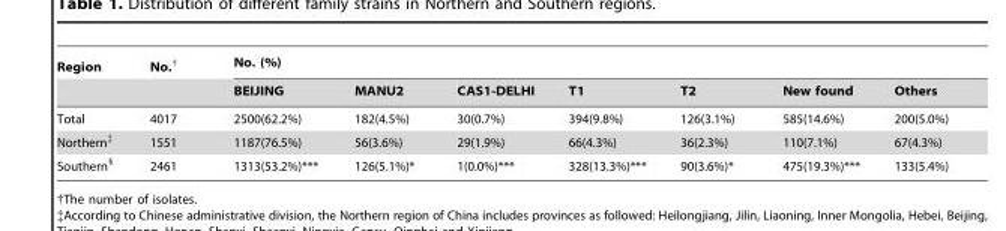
<table><thead><tr><td rowspan="2">Region</td><td rowspan="2">No.†</td><td colspan="7">No. (%)</td></tr><tr><td>BEIJING</td><td>MANU2</td><td>CAS1-DELHI</td><td>T1</td><td>T2</td><td>New found</td><td>Others</td></tr></thead><tbody><tr><td>Total</td><td>4017</td><td>2500(62.2%)</td><td>182(4.5%)</td><td>30(0.7%)</td><td>394(9.8%)</td><td>126(3.1%)</td><td>585(14.6%)</td><td>200(5.0%)</td></tr><tr><td>Northern‡</td><td>1551</td><td>1187(76.5%)</td><td>56(3.6%)</td><td>29(1.9%)</td><td>66(4.3%)</td><td>36(2.3%)</td><td>110(7.1%)</td><td>67(4.3%)</td></tr><tr><td>Southern§</td><td>2461</td><td>1313(53.2%)***</td><td>126(5.1%)*</td><td>1(0.0%)***</td><td>328(13.3%)***</td><td>90(3.6%)*</td><td>475(19.3%)***</td><td>133(5.4%)</td></tr></tbody></table>